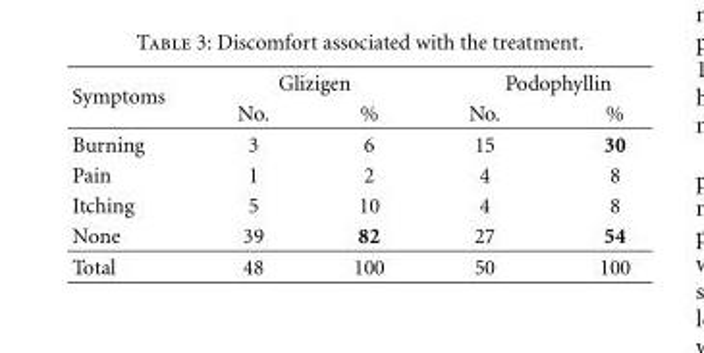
<table><thead><tr><td rowspan="2">Symptoms</td><td colspan="2">Glizigen</td><td colspan="2">Podophyllin</td></tr><tr><td>No.</td><td>%</td><td>No.</td><td>%</td></tr></thead><tbody><tr><td>Burning</td><td>3</td><td>6</td><td>15</td><td>30</td></tr><tr><td>Pain</td><td>1</td><td>2</td><td>4</td><td>8</td></tr><tr><td>Itching</td><td>5</td><td>10</td><td>4</td><td>8</td></tr><tr><td>None</td><td>39</td><td>82</td><td>27</td><td>54</td></tr><tr><td>Total</td><td>48</td><td>100</td><td>50</td><td>100</td></tr></tbody></table>